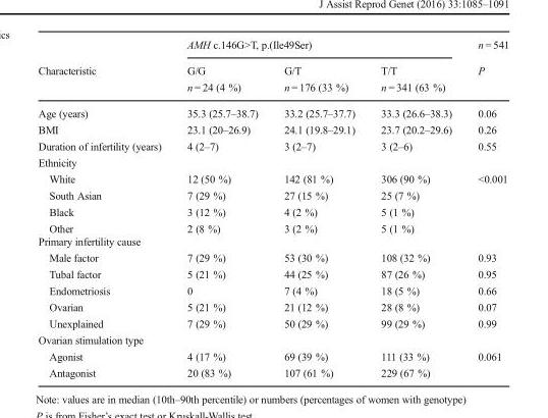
<table><thead><tr><td rowspan="2">Characteristic</td><td colspan="3">AMH c.146G&gt;T, p.(Ile49Ser)</td><td rowspan="2">n = 541 P</td></tr><tr><td>G/G n = 24 (4 %)</td><td>G/T n = 176 (33 %)</td><td>T/T n = 341 (63 %)</td></tr></thead><tbody><tr><td>Age (years)</td><td>35.3 (25.7–38.7)</td><td>33.2 (25.7–37.7)</td><td>33.3 (26.6–38.3)</td><td>0.06</td></tr><tr><td>BMI</td><td>23.1 (20–26.9)</td><td>24.1 (19.8–29.1)</td><td>23.7 (20.2–29.6)</td><td>0.26</td></tr><tr><td>Duration of infertility (years)</td><td>4 (2–7)</td><td>3 (2–7)</td><td>3 (2–6)</td><td>0.55</td></tr><tr><td colspan="5">Ethnicity</td></tr><tr><td>White South Asian Black Other</td><td>12 (50 %) 7 (29 %) 3 (12 %) 2 (8 %)</td><td>142 (81 %) 27 (15 %) 4 (2 %) 3 (2 %)</td><td>306 (90 %) 25 (7 %) 5 (1 %) 5 (1 %)</td><td>&lt;0.001</td></tr><tr><td colspan="5">Primary infertility cause</td></tr><tr><td>Male factor Tubal factor Endometriosis Ovarian Unexplained</td><td>7 (29 %) 5 (21 %) 0 5 (21 %) 7 (29 %)</td><td>53 (30 %) 44 (25 %) 7 (4 %) 21 (12 %) 50 (29 %)</td><td>108 (32 %) 87 (26 %) 18 (5 %) 28 (8 %) 99 (29 %)</td><td>0.93 0.95 0.66 0.07 0.99</td></tr><tr><td colspan="5">Ovarian stimulation type</td></tr><tr><td>Agonist Antagonist</td><td>4 (17 %) 20 (83 %)</td><td>69 (39 %) 107 (61 %)</td><td>111 (33 %) 229 (67 %)</td><td>0.061</td></tr></tbody></table>